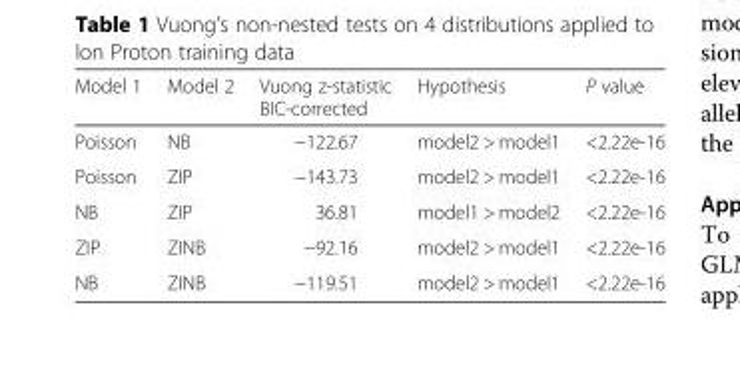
<table><thead><tr><td>Model 1</td><td>Model 2</td><td>Vuong z-statistic BIC-corrected</td><td>Hypothesis</td><td>P value</td></tr></thead><tbody><tr><td>Poisson</td><td>NB</td><td>−122.67</td><td>model2 &gt; model1</td><td>&lt;2.22e-16</td></tr><tr><td>Poisson</td><td>ZIP</td><td>−143.73</td><td>model2 &gt; model1</td><td>&lt;2.22e-16</td></tr><tr><td>NB</td><td>ZIP</td><td>36.81</td><td>model1 &gt; model2</td><td>&lt;2.22e-16</td></tr><tr><td>ZIP</td><td>ZINB</td><td>−92.16</td><td>model2 &gt; model1</td><td>&lt;2.22e-16</td></tr><tr><td>NB</td><td>ZINB</td><td>−119.51</td><td>model2 &gt; model1</td><td>&lt;2.22e-16</td></tr></tbody></table>